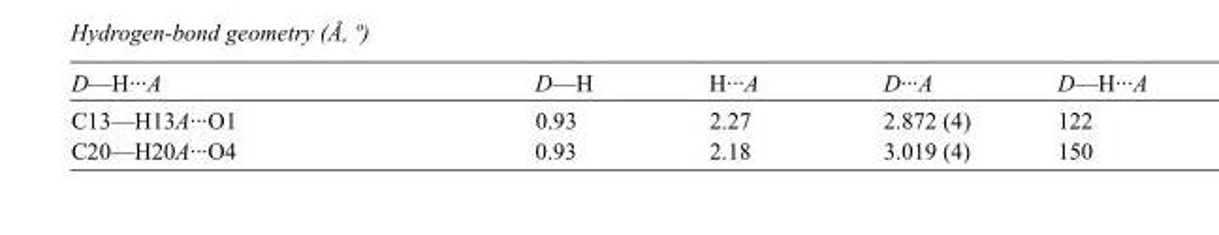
<table><tbody><tr><td>D—H···A</td><td>D—H</td><td>H···A</td><td>D···A</td><td>D—H···A</td></tr><tr><td>C13—H13A···O1</td><td>0.93</td><td>2.27</td><td>2.872 (4)</td><td>122</td></tr><tr><td>C20—H20A···O4</td><td>0.93</td><td>2.18</td><td>3.019 (4)</td><td>150</td></tr></tbody></table>